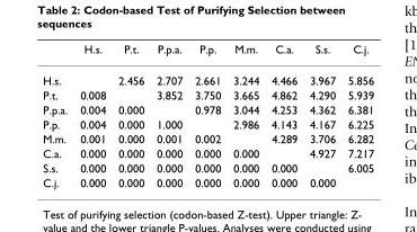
<table><thead><tr><td></td><td>H.s.</td><td>P.t.</td><td>P.p.a.</td><td>P.p.</td><td>M.m.</td><td>C.a.</td><td>S.s.</td><td>C.j.</td></tr></thead><tbody><tr><td>H.s.</td><td></td><td>2.456</td><td>2.707</td><td>2.661</td><td>3.244</td><td>4.466</td><td>3.967</td><td>5.856</td></tr><tr><td>P.t.</td><td>0.008</td><td></td><td>3.852</td><td>3.750</td><td>3.665</td><td>4.862</td><td>4.290</td><td>5.939</td></tr><tr><td>P.p.a.</td><td>0.004</td><td>0.000</td><td></td><td>0.978</td><td>3.044</td><td>4.253</td><td>4.362</td><td>6.381</td></tr><tr><td>P.p.</td><td>0.004</td><td>0.000</td><td>1.000</td><td></td><td>2.986</td><td>4.143</td><td>4.167</td><td>6.225</td></tr><tr><td>M.m.</td><td>0.001</td><td>0.000</td><td>0.001</td><td>0.002</td><td></td><td>4.289</td><td>3.706</td><td>6.282</td></tr><tr><td>C.a.</td><td>0.000</td><td>0.000</td><td>0.000</td><td>0.000</td><td>0.000</td><td></td><td>4.927</td><td>7.217</td></tr><tr><td>S.s.</td><td>0.000</td><td>0.000</td><td>0.000</td><td>0.000</td><td>0.000</td><td>0.000</td><td></td><td>6.005</td></tr><tr><td>C.j.</td><td>0.000</td><td>0.000</td><td>0.000</td><td>0.000</td><td>0.000</td><td>0.000</td><td>0.000</td><td></td></tr></tbody></table>